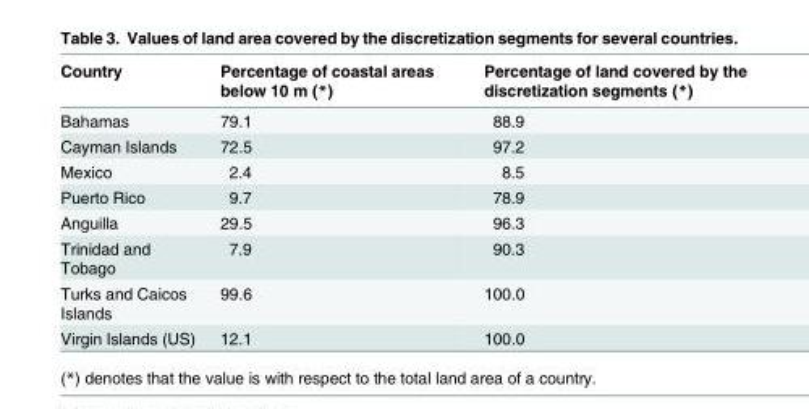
<table><thead><tr><td>Country</td><td>Percentage of coastal areas below 10 m (*)</td><td>Percentage of land covered by the discretization segments (*)</td></tr></thead><tbody><tr><td>Bahamas</td><td>79.1</td><td>88.9</td></tr><tr><td>Cayman Islands</td><td>72.5</td><td>97.2</td></tr><tr><td>Mexico</td><td>2.4</td><td>8.5</td></tr><tr><td>Puerto Rico</td><td>9.7</td><td>78.9</td></tr><tr><td>Anguilla</td><td>29.5</td><td>96.3</td></tr><tr><td>Trinidad and Tobago</td><td>7.9</td><td>90.3</td></tr><tr><td>Turks and Caicos Islands</td><td>99.6</td><td>100.0</td></tr><tr><td>Virgin Islands (US)</td><td>12.1</td><td>100.0</td></tr></tbody></table>